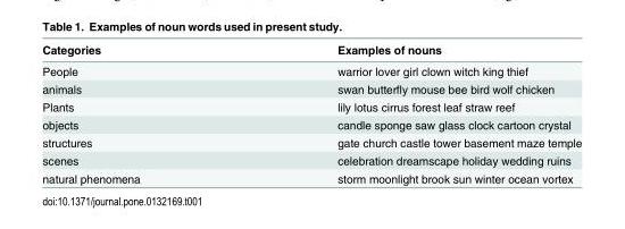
<table><thead><tr><td>Categories</td><td>Examples of nouns</td></tr></thead><tbody><tr><td>People</td><td>warrior lover girl clown witch king thief</td></tr><tr><td>animals</td><td>swan butterfly mouse bee bird wolf chicken</td></tr><tr><td>Plants</td><td>lily lotus cirrus forest leaf straw reef</td></tr><tr><td>objects</td><td>candle sponge saw glass clock cartoon crystal</td></tr><tr><td>structures</td><td>gate church castle tower basement maze temple</td></tr><tr><td>scenes</td><td>celebration dreamscape holiday wedding ruins</td></tr><tr><td>natural phenomena</td><td>storm moonlight brook sun winter ocean vortex</td></tr></tbody></table>